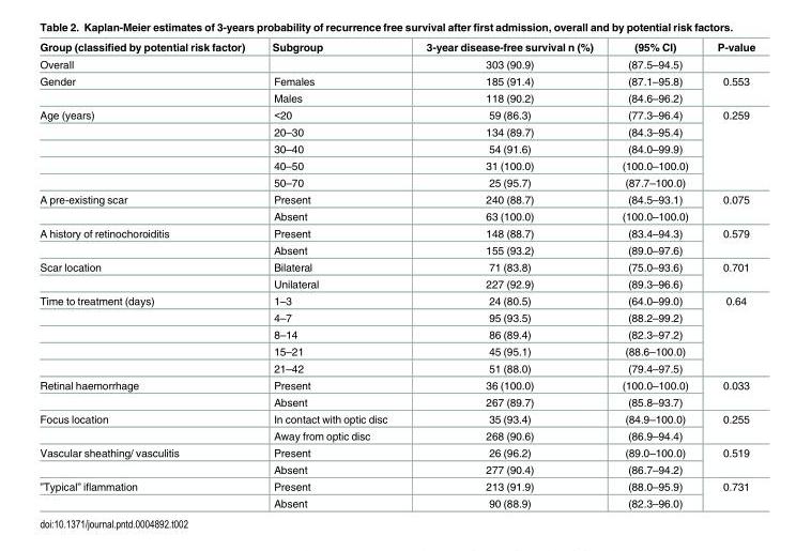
<table><thead><tr><td>Group (classified by potential risk factor)</td><td>Subgroup</td><td>3-year disease-free survival n (%)</td><td>(95% CI)</td><td>P-value</td></tr></thead><tbody><tr><td>Overall</td><td></td><td>303 (90.9)</td><td>(87.5–94.5)</td><td></td></tr><tr><td rowspan="2">Gender</td><td>Females</td><td>185 (91.4)</td><td>(87.1–95.8)</td><td rowspan="2">0.553</td></tr><tr><td>Males</td><td>118 (90.2)</td><td>(84.6–96.2)</td></tr><tr><td rowspan="5">Age (years)</td><td>&lt;20</td><td>59 (86.3)</td><td>(77.3–96.4)</td><td rowspan="5">0.259</td></tr><tr><td>20–30</td><td>134 (89.7)</td><td>(84.3–95.4)</td></tr><tr><td>30–40</td><td>54 (91.6)</td><td>(84.0–99.9)</td></tr><tr><td>40–50</td><td>31 (100.0)</td><td>(100.0–100.0)</td></tr><tr><td>50–70</td><td>25 (95.7)</td><td>(87.7–100.0)</td></tr><tr><td rowspan="2">A pre-existing scar</td><td>Present</td><td>240 (88.7)</td><td>(84.5–93.1)</td><td rowspan="2">0.075</td></tr><tr><td>Absent</td><td>63 (100.0)</td><td>(100.0–100.0)</td></tr><tr><td rowspan="2">A history of retinochoroiditis</td><td>Present</td><td>148 (88.7)</td><td>(83.4–94.3)</td><td rowspan="2">0.579</td></tr><tr><td>Absent</td><td>155 (93.2)</td><td>(89.0–97.6)</td></tr><tr><td rowspan="2">Scar location</td><td>Bilateral</td><td>71 (83.8)</td><td>(75.0–93.6)</td><td rowspan="2">0.701</td></tr><tr><td>Unilateral</td><td>227 (92.9)</td><td>(89.3–96.6)</td></tr><tr><td rowspan="5">Time to treatment (days)</td><td>1–3</td><td>24 (80.5)</td><td>(64.0–99.0)</td><td rowspan="5">0.64</td></tr><tr><td>4–7</td><td>95 (93.5)</td><td>(88.2–99.2)</td></tr><tr><td>8–14</td><td>86 (89.4)</td><td>(82.3–97.2)</td></tr><tr><td>15–21</td><td>45 (95.1)</td><td>(88.6–100.0)</td></tr><tr><td>21–42</td><td>51 (88.0)</td><td>(79.4–97.5)</td></tr><tr><td rowspan="2">Retinal haemorrhage</td><td>Present</td><td>36 (100.0)</td><td>(100.0–100.0)</td><td rowspan="2">0.033</td></tr><tr><td>Absent</td><td>267 (89.7)</td><td>(85.8–93.7)</td></tr><tr><td rowspan="2">Focus location</td><td>In contact with optic disc</td><td>35 (93.4)</td><td>(84.9–100.0)</td><td rowspan="2">0.255</td></tr><tr><td>Away from optic disc</td><td>268 (90.6)</td><td>(86.9–94.4)</td></tr><tr><td rowspan="2">Vascular sheathing/ vasculitis</td><td>Present</td><td>26 (96.2)</td><td>(89.0–100.0)</td><td rowspan="2">0.519</td></tr><tr><td>Absent</td><td>277 (90.4)</td><td>(86.7–94.2)</td></tr><tr><td rowspan="2">”Typical” iflammation</td><td>Present</td><td>213 (91.9)</td><td>(88.0–95.9)</td><td rowspan="2">0.731</td></tr><tr><td>Absent</td><td>90 (88.9)</td><td>(82.3–96.0)</td></tr></tbody></table>